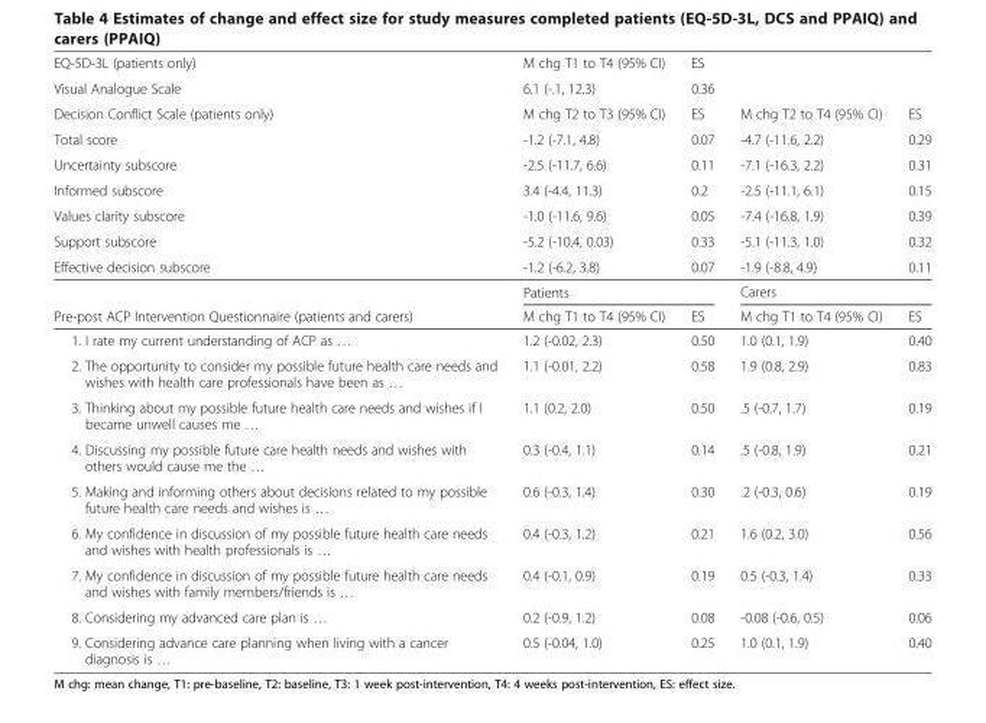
<table><tbody><tr><td>EQ-5D-3L (patients only)</td><td>M chg T1 to T4 (95% CI)</td><td>ES</td><td></td><td></td></tr><tr><td>Visual Analogue Scale</td><td>6.1 (-.1, 12.3)</td><td>0.36</td><td></td><td></td></tr><tr><td>Decision Conflict Scale (patients only)</td><td>M chg T2 to T3 (95% CI)</td><td>ES</td><td>M chg T2 to T4 (95% CI)</td><td>ES</td></tr><tr><td>Total score</td><td>-1.2 (-7.1, 4.8)</td><td>0.07</td><td>-4.7 (-11.6, 2.2)</td><td>0.29</td></tr><tr><td>Uncertainty subscore</td><td>-2.5 (-11.7, 6.6)</td><td>0.11</td><td>-7.1 (-16.3, 2.2)</td><td>0.31</td></tr><tr><td>Informed subscore</td><td>3.4 (-4.4, 11.3)</td><td>0.2</td><td>-2.5 (-11.1, 6.1)</td><td>0.15</td></tr><tr><td>Values clarity subscore</td><td>-1.0 (-11.6, 9.6)</td><td>0.05</td><td>-7.4 (-16.8, 1.9)</td><td>0.39</td></tr><tr><td>Support subscore</td><td>-5.2 (-10.4, 0.03)</td><td>0.33</td><td>-5.1 (-11.3, 1.0)</td><td>0.32</td></tr><tr><td rowspan="2">Effective decision subscore</td><td>-1.2 (-6.2, 3.8)</td><td>0.07</td><td>-1.9 (-8.8, 4.9)</td><td>0.11</td></tr><tr><td colspan="2">Patients</td><td colspan="2">Carers</td></tr><tr><td>Pre-post ACP Intervention Questionnaire (patients and carers)</td><td>M chg T1 to T4 (95% CI)</td><td>ES</td><td>M chg T1 to T4 (95% CI)</td><td>ES</td></tr><tr><td>1. I rate my current understanding of ACP as …</td><td>1.2 (-0.02, 2.3)</td><td>0.50</td><td>1.0 (0.1, 1.9)</td><td>0.40</td></tr><tr><td>2. The opportunity to consider my possible future health care needs and wishes with health care professionals have been as …</td><td>1.1 (-0.01, 2.2)</td><td>0.58</td><td>1.9 (0.8, 2.9)</td><td>0.83</td></tr><tr><td>3. Thinking about my possible future health care needs and wishes if I became unwell causes me …</td><td>1.1 (0.2, 2.0)</td><td>0.50</td><td>.5 (-0.7, 1.7)</td><td>0.19</td></tr><tr><td>4. Discussing my possible future care health needs and wishes with others would cause me the …</td><td>0.3 (-0.4, 1.1)</td><td>0.14</td><td>.5 (-0.8, 1.9)</td><td>0.21</td></tr><tr><td>5. Making and informing others about decisions related to my possible future health care needs and wishes is …</td><td>0.6 (-0.3, 1.4)</td><td>0.30</td><td>.2 (-0.3, 0.6)</td><td>0.19</td></tr><tr><td>6. My confidence in discussion of my possible future health care needs and wishes with health professionals is …</td><td>0.4 (-0.3, 1.2)</td><td>0.21</td><td>1.6 (0.2, 3.0)</td><td>0.56</td></tr><tr><td>7. My confidence in discussion of my possible future health care needs and wishes with family members/friends is …</td><td>0.4 (-0.1, 0.9)</td><td>0.19</td><td>0.5 (-0.3, 1.4)</td><td>0.33</td></tr><tr><td>8. Considering my advanced care plan is …</td><td>0.2 (-0.9, 1.2)</td><td>0.08</td><td>-0.08 (-0.6, 0.5)</td><td>0.06</td></tr><tr><td>9. Considering advance care planning when living with a cancer diagnosis is …</td><td>0.5 (-0.04, 1.0)</td><td>0.25</td><td>1.0 (0.1, 1.9)</td><td>0.40</td></tr></tbody></table>